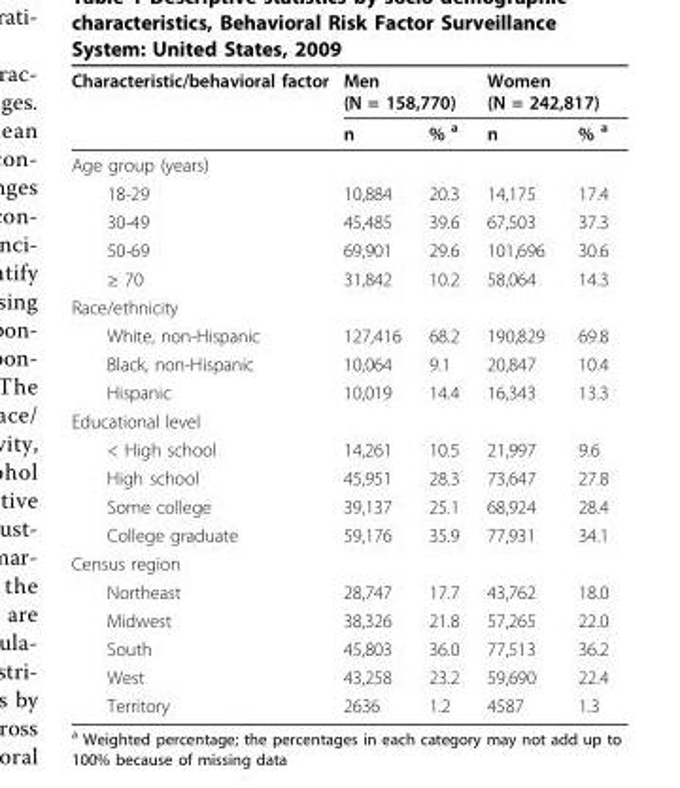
<table><thead><tr><td rowspan="2">Characteristic/behavioral factor</td><td colspan="2">Men (N = 158,770)</td><td colspan="2">Women (N = 242,817)</td></tr><tr><td>n</td><td>% <sup>a</sup></td><td>n</td><td>% <sup>a</sup></td></tr></thead><tbody><tr><td colspan="5">Age group (years)</td></tr><tr><td>18-29</td><td>10,884</td><td>20.3</td><td>14,175</td><td>17.4</td></tr><tr><td>30-49</td><td>45,485</td><td>39.6</td><td>67,503</td><td>37.3</td></tr><tr><td>50-69</td><td>69,901</td><td>29.6</td><td>101,696</td><td>30.6</td></tr><tr><td>≥ 70</td><td>31,842</td><td>10.2</td><td>58,064</td><td>14.3</td></tr><tr><td colspan="5">Race/ethnicity</td></tr><tr><td>White, non-Hispanic</td><td>127,416</td><td>68.2</td><td>190,829</td><td>69.8</td></tr><tr><td>Black, non-Hispanic</td><td>10,064</td><td>9.1</td><td>20,847</td><td>10.4</td></tr><tr><td>Hispanic</td><td>10,019</td><td>14.4</td><td>16,343</td><td>13.3</td></tr><tr><td colspan="5">Educational level</td></tr><tr><td>&lt; High school</td><td>14,261</td><td>10.5</td><td>21,997</td><td>9.6</td></tr><tr><td>High school</td><td>45,951</td><td>28.3</td><td>73,647</td><td>27.8</td></tr><tr><td>Some college</td><td>39,137</td><td>25.1</td><td>68,924</td><td>28.4</td></tr><tr><td>College graduate</td><td>59,176</td><td>35.9</td><td>77,931</td><td>34.1</td></tr><tr><td colspan="5">Census region</td></tr><tr><td>Northeast</td><td>28,747</td><td>17.7</td><td>43,762</td><td>18.0</td></tr><tr><td>Midwest</td><td>38,326</td><td>21.8</td><td>57,265</td><td>22.0</td></tr><tr><td>South</td><td>45,803</td><td>36.0</td><td>77,513</td><td>36.2</td></tr><tr><td>West</td><td>43,258</td><td>23.2</td><td>59,690</td><td>22.4</td></tr><tr><td>Territory</td><td>2636</td><td>1.2</td><td>4587</td><td>1.3</td></tr></tbody></table>